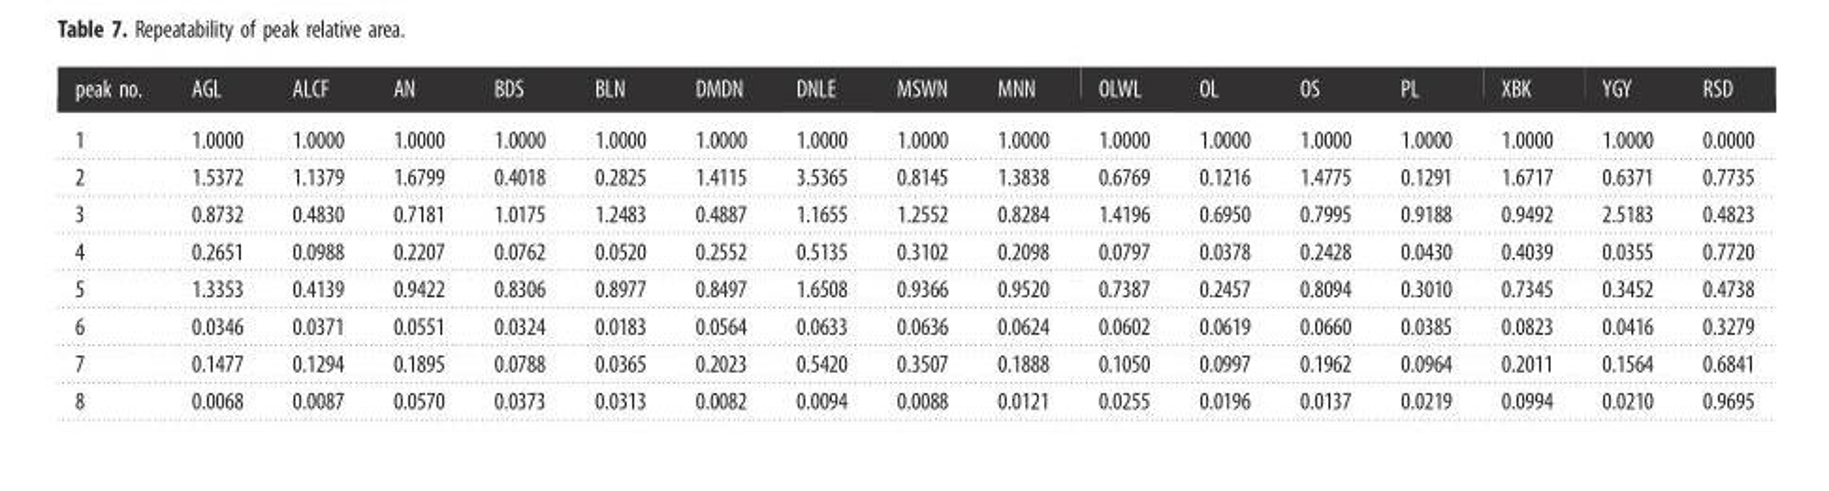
<table><thead><tr><td>peak no.</td><td>AGL</td><td>ALCF</td><td>AN</td><td>BDS</td><td>BLN</td><td>DMDN</td><td>DNLE</td><td>MSWN</td><td>MNN</td><td>OLWL</td><td>OL</td><td>OS</td><td>PL</td><td>XBK</td><td>YGY</td><td>RSD</td></tr></thead><tbody><tr><td>1</td><td>1.0000</td><td>1.0000</td><td>1.0000</td><td>1.0000</td><td>1.0000</td><td>1.0000</td><td>1.0000</td><td>1.0000</td><td>1.0000</td><td>1.0000</td><td>1.0000</td><td>1.0000</td><td>1.0000</td><td>1.0000</td><td>1.0000</td><td>0.0000</td></tr><tr><td>2</td><td>1.5372</td><td>1.1379</td><td>1.6799</td><td>0.4018</td><td>0.2825</td><td>1.4115</td><td>3.5365</td><td>0.8145</td><td>1.3838</td><td>0.6769</td><td>0.1216</td><td>1.4775</td><td>0.1291</td><td>1.6717</td><td>0.6371</td><td>0.7735</td></tr><tr><td>3</td><td>0.8732</td><td>0.4830</td><td>0.7181</td><td>1.0175</td><td>1.2483</td><td>0.4887</td><td>1.1655</td><td>1.2552</td><td>0.8284</td><td>1.4196</td><td>0.6950</td><td>0.7995</td><td>0.9188</td><td>0.9492</td><td>2.5183</td><td>0.4823</td></tr><tr><td>4</td><td>0.2651</td><td>0.0988</td><td>0.2207</td><td>0.0762</td><td>0.0520</td><td>0.2552</td><td>0.5135</td><td>0.3102</td><td>0.2098</td><td>0.0797</td><td>0.0378</td><td>0.2428</td><td>0.0430</td><td>0.4039</td><td>0.0355</td><td>0.7720</td></tr><tr><td>5</td><td>1.3353</td><td>0.4139</td><td>0.9422</td><td>0.8306</td><td>0.8977</td><td>0.8497</td><td>1.6508</td><td>0.9366</td><td>0.9520</td><td>0.7387</td><td>0.2457</td><td>0.8094</td><td>0.3010</td><td>0.7345</td><td>0.3452</td><td>0.4738</td></tr><tr><td>6</td><td>0.0346</td><td>0.0371</td><td>0.0551</td><td>0.0324</td><td>0.0183</td><td>0.0564</td><td>0.0633</td><td>0.0636</td><td>0.0624</td><td>0.0602</td><td>0.0619</td><td>0.0660</td><td>0.0385</td><td>0.0823</td><td>0.0416</td><td>0.3279</td></tr><tr><td>7</td><td>0.1477</td><td>0.1294</td><td>0.1895</td><td>0.0788</td><td>0.0365</td><td>0.2023</td><td>0.5420</td><td>0.3507</td><td>0.1888</td><td>0.1050</td><td>0.0997</td><td>0.1962</td><td>0.0964</td><td>0.2011</td><td>0.1564</td><td>0.6841</td></tr><tr><td>8</td><td>0.0068</td><td>0.0087</td><td>0.0570</td><td>0.0373</td><td>0.0313</td><td>0.0082</td><td>0.0094</td><td>0.0088</td><td>0.0121</td><td>0.0255</td><td>0.0196</td><td>0.0137</td><td>0.0219</td><td>0.0994</td><td>0.0210</td><td>0.9695</td></tr></tbody></table>